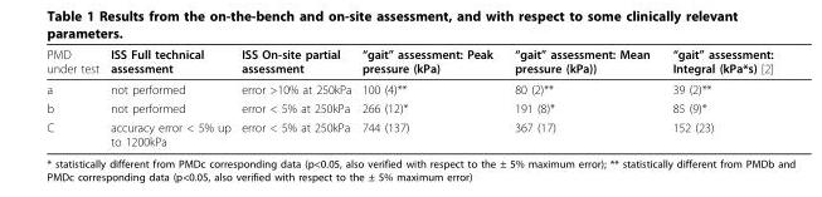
<table><thead><tr><td>PMD under test</td><td>ISS Full technical assessment</td><td>ISS On-site partial assessment</td><td>“gait” assessment: Peak pressure (kPa)</td><td>“gait” assessment: Mean pressure (kPa))</td><td>“gait” assessment: Integral (kPa*s) [2]</td></tr></thead><tbody><tr><td>a</td><td>not performed</td><td>error &gt;10% at 250kPa</td><td>100 (4)**</td><td>80 (2)**</td><td>39 (2)**</td></tr><tr><td>b</td><td>not performed</td><td>error &lt; 5% at 250kPa</td><td>266 (12)*</td><td>191 (8)*</td><td>85 (9)*</td></tr><tr><td>C</td><td>accuracy error &lt; 5% up to 1200kPa</td><td>error &lt; 5% at 250kPa</td><td>744 (137)</td><td>367 (17)</td><td>152 (23)</td></tr></tbody></table>